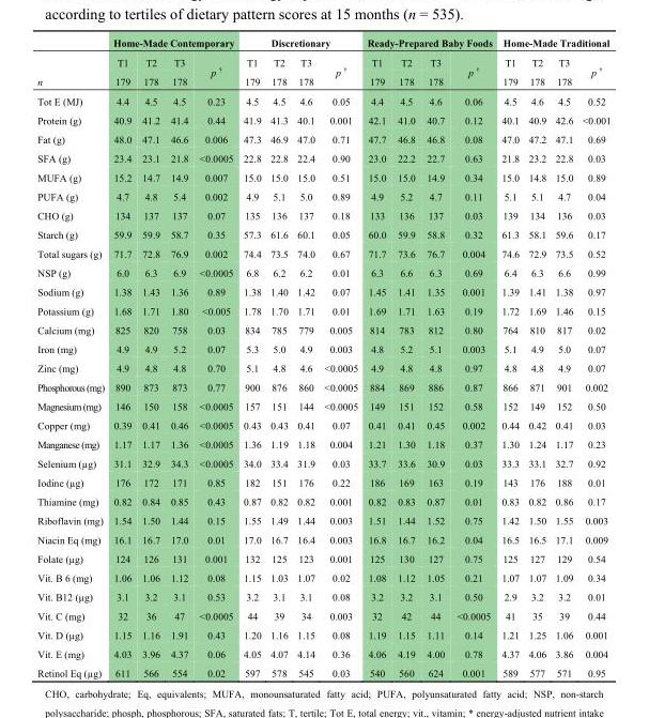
<table><thead><tr><td rowspan="3">n</td><td colspan="4">Home-Made Contemporary</td><td colspan="4">Discretionary</td><td colspan="4">Ready-Prepared Baby Foods</td><td colspan="4">Home-Made Traditional</td></tr><tr><td rowspan="2">T1 179</td><td rowspan="2">T2 178</td><td rowspan="2">T3 178</td><td rowspan="2">p <sup>†</sup></td><td rowspan="2">T1 179</td><td rowspan="2">T2 178</td><td rowspan="2">T3 178</td><td rowspan="2">p <sup>†</sup></td><td rowspan="2">T1 179</td><td rowspan="2">T2 178</td><td rowspan="2">T3 178</td><td rowspan="2">p <sup>†</sup></td><td rowspan="2">T1 179</td><td rowspan="2">T2 178</td><td rowspan="2">T3 178</td><td rowspan="2">p <sup>†</sup></td></tr><tr></tr></thead><tbody><tr><td>Tot E (MJ)</td><td>4.4</td><td>4.5</td><td>4.5</td><td>0.23</td><td>4.5</td><td>4.5</td><td>4.6</td><td>0.05</td><td>4.4</td><td>4.5</td><td>4.6</td><td>0.06</td><td>4.5</td><td>4.6</td><td>4.5</td><td>0.52</td></tr><tr><td>Protein (g)</td><td>40.9</td><td>41.2</td><td>41.4</td><td>0.44</td><td>41.9</td><td>41.3</td><td>40.1</td><td>0.001</td><td>42.1</td><td>41.0</td><td>40.7</td><td>0.12</td><td>40.1</td><td>40.9</td><td>42.6</td><td>&lt;0.001</td></tr><tr><td>Fat (g)</td><td>48.0</td><td>47.1</td><td>46.6</td><td>0.006</td><td>47.3</td><td>46.9</td><td>47.0</td><td>0.71</td><td>47.7</td><td>46.8</td><td>46.8</td><td>0.08</td><td>47.0</td><td>47.2</td><td>47.1</td><td>0.69</td></tr><tr><td>SFA (g)</td><td>23.4</td><td>23.1</td><td>21.8</td><td>&lt;0.0005</td><td>22.8</td><td>22.8</td><td>22.4</td><td>0.90</td><td>23.0</td><td>22.2</td><td>22.7</td><td>0.63</td><td>21.8</td><td>23.2</td><td>22.8</td><td>0.03</td></tr><tr><td>MUFA (g)</td><td>15.2</td><td>14.7</td><td>14.9</td><td>0.007</td><td>15.0</td><td>15.0</td><td>15.0</td><td>0.51</td><td>15.0</td><td>15.0</td><td>14.9</td><td>0.34</td><td>15.0</td><td>14.8</td><td>15.0</td><td>0.89</td></tr><tr><td>PUFA (g)</td><td>4.7</td><td>4.8</td><td>5.4</td><td>0.002</td><td>4.9</td><td>5.1</td><td>5.0</td><td>0.89</td><td>4.9</td><td>5.2</td><td>4.7</td><td>0.11</td><td>5.1</td><td>5.1</td><td>4.7</td><td>0.04</td></tr><tr><td>CHO (g)</td><td>134</td><td>137</td><td>137</td><td>0.07</td><td>135</td><td>136</td><td>137</td><td>0.18</td><td>133</td><td>136</td><td>137</td><td>0.03</td><td>139</td><td>134</td><td>136</td><td>0.03</td></tr><tr><td>Starch (g)</td><td>59.9</td><td>59.9</td><td>58.7</td><td>0.35</td><td>57.3</td><td>61.6</td><td>60.1</td><td>0.05</td><td>60.0</td><td>59.9</td><td>58.8</td><td>0.32</td><td>61.3</td><td>58.1</td><td>59.6</td><td>0.17</td></tr><tr><td>Total sugars (g)</td><td>71.7</td><td>72.8</td><td>76.9</td><td>0.002</td><td>74.4</td><td>73.5</td><td>74.0</td><td>0.67</td><td>71.7</td><td>73.6</td><td>76.7</td><td>0.004</td><td>74.6</td><td>72.9</td><td>73.5</td><td>0.52</td></tr><tr><td>NSP (g)</td><td>6.0</td><td>6.3</td><td>6.9</td><td>&lt;0.0005</td><td>6.8</td><td>6.2</td><td>6.2</td><td>0.01</td><td>6.3</td><td>6.6</td><td>6.3</td><td>0.69</td><td>6.4</td><td>6.3</td><td>6.6</td><td>0.99</td></tr><tr><td>Sodium (g)</td><td>1.38</td><td>1.43</td><td>1.36</td><td>0.89</td><td>1.38</td><td>1.40</td><td>1.42</td><td>0.07</td><td>1.45</td><td>1.41</td><td>1.35</td><td>0.001</td><td>1.39</td><td>1.41</td><td>1.38</td><td>0.97</td></tr><tr><td>Potassium (g)</td><td>1.68</td><td>1.71</td><td>1.80</td><td>&lt;0.005</td><td>1.78</td><td>1.70</td><td>1.71</td><td>0.01</td><td>1.69</td><td>1.71</td><td>1.63</td><td>0.19</td><td>1.72</td><td>1.69</td><td>1.46</td><td>0.15</td></tr><tr><td>Calcium (mg)</td><td>825</td><td>820</td><td>758</td><td>0.03</td><td>834</td><td>785</td><td>779</td><td>0.005</td><td>814</td><td>783</td><td>812</td><td>0.80</td><td>764</td><td>810</td><td>817</td><td>0.02</td></tr><tr><td>Iron (mg)</td><td>4.9</td><td>4.9</td><td>5.2</td><td>0.07</td><td>5.3</td><td>5.0</td><td>4.9</td><td>0.003</td><td>4.8</td><td>5.2</td><td>5.1</td><td>0.003</td><td>5.1</td><td>4.9</td><td>5.0</td><td>0.07</td></tr><tr><td>Zinc (mg)</td><td>4.9</td><td>4.8</td><td>4.8</td><td>0.70</td><td>5.1</td><td>4.8</td><td>4.6</td><td>&lt;0.0005</td><td>4.9</td><td>4.8</td><td>4.8</td><td>0.97</td><td>4.8</td><td>4.8</td><td>4.9</td><td>0.07</td></tr><tr><td>Phosphorous (mg)</td><td>890</td><td>873</td><td>873</td><td>0.77</td><td>900</td><td>876</td><td>860</td><td>&lt;0.0005</td><td>884</td><td>869</td><td>886</td><td>0.87</td><td>866</td><td>871</td><td>901</td><td>0.002</td></tr><tr><td>Magnesium (mg)</td><td>146</td><td>150</td><td>158</td><td>&lt;0.0005</td><td>157</td><td>151</td><td>144</td><td>&lt;0.0005</td><td>149</td><td>151</td><td>152</td><td>0.58</td><td>152</td><td>149</td><td>152</td><td>0.50</td></tr><tr><td>Copper (mg)</td><td>0.39</td><td>0.41</td><td>0.46</td><td>&lt;0.0005</td><td>0.43</td><td>0.43</td><td>0.41</td><td>0.07</td><td>0.41</td><td>0.41</td><td>0.45</td><td>0.002</td><td>0.44</td><td>0.42</td><td>0.41</td><td>0.03</td></tr><tr><td>Manganese (mg)</td><td>1.17</td><td>1.17</td><td>1.36</td><td>&lt;0.0005</td><td>1.36</td><td>1.19</td><td>1.18</td><td>0.004</td><td>1.21</td><td>1.30</td><td>1.18</td><td>0.37</td><td>1.30</td><td>1.24</td><td>1.17</td><td>0.23</td></tr><tr><td>Selenium (µg)</td><td>31.1</td><td>32.9</td><td>34.3</td><td>&lt;0.0005</td><td>34.0</td><td>33.4</td><td>31.9</td><td>0.03</td><td>33.7</td><td>33.6</td><td>30.9</td><td>0.03</td><td>33.3</td><td>33.1</td><td>32.7</td><td>0.92</td></tr><tr><td>Iodine (µg)</td><td>176</td><td>172</td><td>171</td><td>0.85</td><td>182</td><td>151</td><td>176</td><td>0.22</td><td>186</td><td>169</td><td>163</td><td>0.19</td><td>143</td><td>176</td><td>188</td><td>0.01</td></tr><tr><td>Thiamine (mg)</td><td>0.82</td><td>0.84</td><td>0.85</td><td>0.43</td><td>0.87</td><td>0.82</td><td>0.82</td><td>0.001</td><td>0.82</td><td>0.83</td><td>0.87</td><td>0.01</td><td>0.83</td><td>0.82</td><td>0.86</td><td>0.17</td></tr><tr><td>Riboflavin (mg)</td><td>1.54</td><td>1.50</td><td>1.44</td><td>0.15</td><td>1.55</td><td>1.49</td><td>1.44</td><td>0.003</td><td>1.51</td><td>1.44</td><td>1.52</td><td>0.75</td><td>1.42</td><td>1.50</td><td>1.55</td><td>0.003</td></tr><tr><td>Niacin Eq (mg)</td><td>16.1</td><td>16.7</td><td>17.0</td><td>0.01</td><td>17.0</td><td>16.7</td><td>16.4</td><td>0.003</td><td>16.8</td><td>16.7</td><td>16.2</td><td>0.04</td><td>16.5</td><td>16.5</td><td>17.1</td><td>0.009</td></tr><tr><td>Folate (µg)</td><td>124</td><td>126</td><td>131</td><td>0.001</td><td>132</td><td>125</td><td>123</td><td>0.001</td><td>125</td><td>130</td><td>127</td><td>0.75</td><td>125</td><td>127</td><td>129</td><td>0.54</td></tr><tr><td>Vit. B 6 (mg)</td><td>1.06</td><td>1.06</td><td>1.12</td><td>0.08</td><td>1.15</td><td>1.03</td><td>1.07</td><td>0.02</td><td>1.08</td><td>1.12</td><td>1.05</td><td>0.21</td><td>1.07</td><td>1.07</td><td>1.09</td><td>0.34</td></tr><tr><td>Vit. B12 (µg)</td><td>3.1</td><td>3.2</td><td>3.1</td><td>0.53</td><td>3.2</td><td>3.1</td><td>3.1</td><td>0.08</td><td>3.2</td><td>3.2</td><td>3.1</td><td>0.50</td><td>2.9</td><td>3.2</td><td>3.2</td><td>0.01</td></tr><tr><td>Vit. C (mg)</td><td>32</td><td>36</td><td>47</td><td>&lt;0.0005</td><td>44</td><td>39</td><td>34</td><td>0.003</td><td>32</td><td>42</td><td>44</td><td>&lt;0.0005</td><td>41</td><td>35</td><td>39</td><td>0.44</td></tr><tr><td>Vit. D (µg)</td><td>1.15</td><td>1.16</td><td>1.91</td><td>0.43</td><td>1.20</td><td>1.16</td><td>1.15</td><td>0.08</td><td>1.19</td><td>1.15</td><td>1.11</td><td>0.14</td><td>1.21</td><td>1.25</td><td>1.06</td><td>0.001</td></tr><tr><td>Vit. E (mg)</td><td>4.03</td><td>3.96</td><td>4.37</td><td>0.06</td><td>4.05</td><td>4.07</td><td>4.14</td><td>0.36</td><td>4.06</td><td>4.19</td><td>4.00</td><td>0.78</td><td>4.37</td><td>4.06</td><td>3.86</td><td>0.004</td></tr><tr><td>Retinol Eq (µg)</td><td>611</td><td>566</td><td>554</td><td>0.02</td><td>597</td><td>578</td><td>545</td><td>0.03</td><td>540</td><td>560</td><td>624</td><td>0.001</td><td>589</td><td>577</td><td>571</td><td>0.95</td></tr></tbody></table>